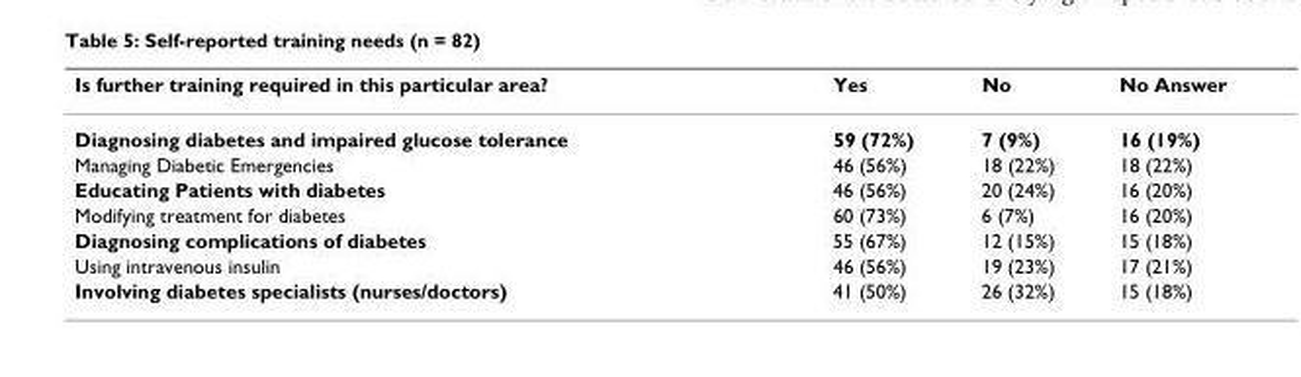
<table><thead><tr><td>Is further training required in this particular area?</td><td>Yes</td><td>No</td><td>No Answer</td></tr></thead><tbody><tr><td>Diagnosing diabetes and impaired glucose tolerance</td><td>59 (72%)</td><td>7 (9%)</td><td>16 (19%)</td></tr><tr><td>Managing Diabetic Emergencies</td><td>46 (56%)</td><td>18 (22%)</td><td>18 (22%)</td></tr><tr><td>Educating Patients with diabetes</td><td>46 (56%)</td><td>20 (24%)</td><td>16 (20%)</td></tr><tr><td>Modifying treatment for diabetes</td><td>60 (73%)</td><td>6 (7%)</td><td>16 (20%)</td></tr><tr><td>Diagnosing complications of diabetes</td><td>55 (67%)</td><td>12 (15%)</td><td>15 (18%)</td></tr><tr><td>Using intravenous insulin</td><td>46 (56%)</td><td>19 (23%)</td><td>17 (21%)</td></tr><tr><td>Involving diabetes specialists (nurses/doctors)</td><td>41 (50%)</td><td>26 (32%)</td><td>15 (18%)</td></tr></tbody></table>